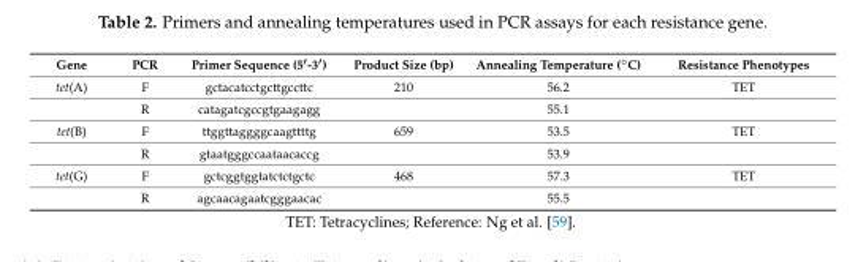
<table><thead><tr><td>Gene</td><td>PCR</td><td>Primer Sequence (5′-3′)</td><td>Product Size (bp)</td><td>Annealing Temperature (◦C)</td><td>Resistance Phenotypes</td></tr></thead><tbody><tr><td rowspan="2">tet(A)</td><td>F</td><td>gctacatcctgcttgccttc</td><td>210</td><td>56.2</td><td>TET</td></tr><tr><td>R</td><td>catagatcgccgtgaagagg</td><td></td><td>55.1</td><td></td></tr><tr><td rowspan="2">tet(B)</td><td>F</td><td>ttggttaggggcaagttttg</td><td>659</td><td>53.5</td><td>TET</td></tr><tr><td>R</td><td>gtaatgggccaataacaccg</td><td></td><td>53.9</td><td></td></tr><tr><td rowspan="2">tet(G)</td><td>F</td><td>gctcggtggtatctctgctc</td><td>468</td><td>57.3</td><td>TET</td></tr><tr><td>R</td><td>agcaacagaatcgggaacac</td><td></td><td>55.5</td><td></td></tr></tbody></table>